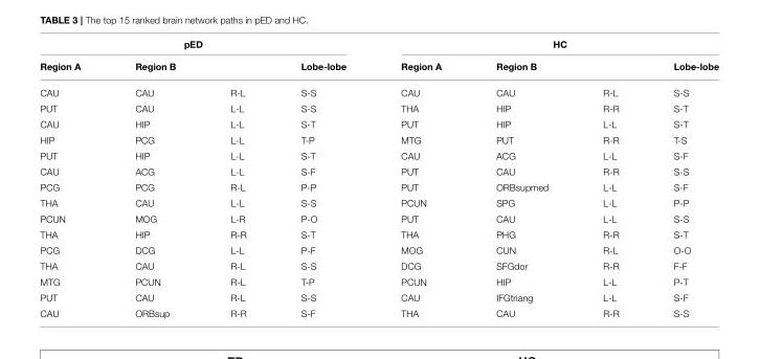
<table><thead><tr><td colspan="4">pED</td><td colspan="4">HC</td></tr><tr><td>Region A</td><td>Region B</td><td></td><td>Lobe-lobe</td><td>Region A</td><td>Region B</td><td></td><td>Lobe-lobe</td></tr></thead><tbody><tr><td>CAU</td><td>CAU</td><td>R-L</td><td>S-S</td><td>CAU</td><td>CAU</td><td>R-L</td><td>S-S</td></tr><tr><td>PUT</td><td>CAU</td><td>L-L</td><td>S-S</td><td>THA</td><td>HIP</td><td>R-R</td><td>S-T</td></tr><tr><td>CAU</td><td>HIP</td><td>L-L</td><td>S-T</td><td>PUT</td><td>HIP</td><td>L-L</td><td>S-T</td></tr><tr><td>HIP</td><td>PCG</td><td>L-L</td><td>T-P</td><td>MTG</td><td>PUT</td><td>R-R</td><td>T-S</td></tr><tr><td>PUT</td><td>HIP</td><td>L-L</td><td>S-T</td><td>CAU</td><td>ACG</td><td>L-L</td><td>S-F</td></tr><tr><td>CAU</td><td>ACG</td><td>L-L</td><td>S-F</td><td>PUT</td><td>CAU</td><td>R-R</td><td>S-S</td></tr><tr><td>PCG</td><td>PCG</td><td>R-L</td><td>P-P</td><td>PUT</td><td>ORBsupmed</td><td>L-L</td><td>S-F</td></tr><tr><td>THA</td><td>CAU</td><td>L-L</td><td>S-S</td><td>PCUN</td><td>SPG</td><td>L-L</td><td>P-P</td></tr><tr><td>PCUN</td><td>MOG</td><td>L-R</td><td>P-O</td><td>PUT</td><td>CAU</td><td>L-L</td><td>S-S</td></tr><tr><td>THA</td><td>HIP</td><td>R-R</td><td>S-T</td><td>THA</td><td>PHG</td><td>R-R</td><td>S-T</td></tr><tr><td>PCG</td><td>DCG</td><td>L-L</td><td>P-F</td><td>MOG</td><td>CUN</td><td>R-L</td><td>O-O</td></tr><tr><td>THA</td><td>CAU</td><td>R-L</td><td>S-S</td><td>DCG</td><td>SFGdor</td><td>R-R</td><td>F-F</td></tr><tr><td>MTG</td><td>PCUN</td><td>R-L</td><td>T-P</td><td>PCUN</td><td>HIP</td><td>L-L</td><td>P-T</td></tr><tr><td>PUT</td><td>CAU</td><td>R-L</td><td>S-S</td><td>CAU</td><td>IFGtriang</td><td>L-L</td><td>S-F</td></tr><tr><td>CAU</td><td>ORBsup</td><td>R-R</td><td>S-F</td><td>THA</td><td>CAU</td><td>R-R</td><td>S-S</td></tr></tbody></table>